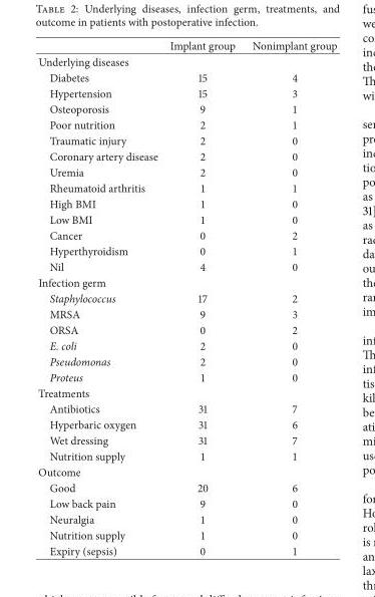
<table><thead><tr><td></td><td>Implant group</td><td>Nonimplant group</td></tr></thead><tbody><tr><td colspan="3">Underlying diseases</td></tr><tr><td>Diabetes</td><td>15</td><td>4</td></tr><tr><td>Hypertension</td><td>15</td><td>3</td></tr><tr><td>Osteoporosis</td><td>9</td><td>1</td></tr><tr><td>Poor nutrition</td><td>2</td><td>1</td></tr><tr><td>Traumatic injury</td><td>2</td><td>0</td></tr><tr><td>Coronary artery disease</td><td>2</td><td>0</td></tr><tr><td>Uremia</td><td>2</td><td>0</td></tr><tr><td>Rheumatoid arthritis</td><td>1</td><td>1</td></tr><tr><td>High BMI</td><td>1</td><td>0</td></tr><tr><td>Low BMI</td><td>1</td><td>0</td></tr><tr><td>Cancer</td><td>0</td><td>2</td></tr><tr><td>Hyperthyroidism</td><td>0</td><td>1</td></tr><tr><td>Nil</td><td>4</td><td>0</td></tr><tr><td colspan="3">Infection germ</td></tr><tr><td>Staphylococcus</td><td>17</td><td>2</td></tr><tr><td>MRSA</td><td>9</td><td>3</td></tr><tr><td>ORSA</td><td>0</td><td>2</td></tr><tr><td>E. coli</td><td>2</td><td>0</td></tr><tr><td>Pseudomonas</td><td>2</td><td>0</td></tr><tr><td>Proteus</td><td>1</td><td>0</td></tr><tr><td colspan="3">Treatments</td></tr><tr><td>Antibiotics</td><td>31</td><td>7</td></tr><tr><td>Hyperbaric oxygen</td><td>31</td><td>6</td></tr><tr><td>Wet dressing</td><td>31</td><td>7</td></tr><tr><td>Nutrition supply</td><td>1</td><td>1</td></tr><tr><td colspan="3">Outcome</td></tr><tr><td>Good</td><td>20</td><td>6</td></tr><tr><td>Low back pain</td><td>9</td><td>0</td></tr><tr><td>Neuralgia</td><td>1</td><td>0</td></tr><tr><td>Nutrition supply</td><td>1</td><td>0</td></tr><tr><td>Expiry (sepsis)</td><td>0</td><td>1</td></tr></tbody></table>